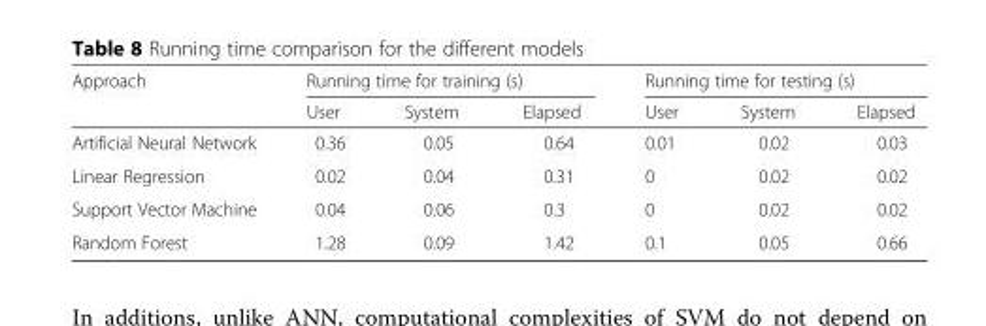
<table><thead><tr><td rowspan="2">Approach</td><td colspan="3">Running time for training (s)</td><td colspan="3">Running time for testing (s)</td></tr><tr><td>User</td><td>System</td><td>Elapsed</td><td>User</td><td>System</td><td>Elapsed</td></tr></thead><tbody><tr><td>Artificial Neural Network</td><td>0.36</td><td>0.05</td><td>0.64</td><td>0.01</td><td>0.02</td><td>0.03</td></tr><tr><td>Linear Regression</td><td>0.02</td><td>0.04</td><td>0.31</td><td>0</td><td>0.02</td><td>0.02</td></tr><tr><td>Support Vector Machine</td><td>0.04</td><td>0.06</td><td>0.3</td><td>0</td><td>0.02</td><td>0.02</td></tr><tr><td>Random Forest</td><td>1.28</td><td>0.09</td><td>1.42</td><td>0.1</td><td>0.05</td><td>0.66</td></tr></tbody></table>